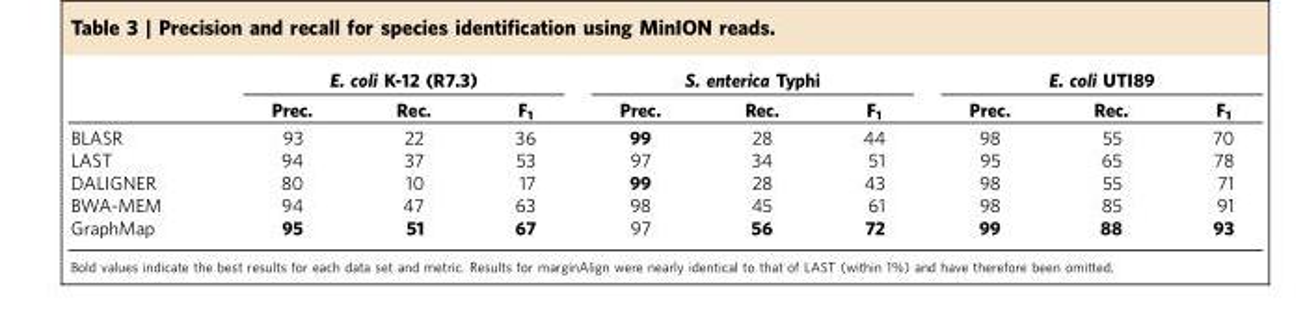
<table><thead><tr><td rowspan="2"></td><td colspan="3">E. coli K-12 (R7.3)</td><td colspan="3">S. enterica Typhi</td><td colspan="3">E. coli UTI89</td></tr><tr><td>Prec.</td><td>Rec.</td><td>F<sub>1</sub></td><td>Prec.</td><td>Rec.</td><td>F<sub>1</sub></td><td>Prec.</td><td>Rec.</td><td>F<sub>1</sub></td></tr></thead><tbody><tr><td>BLASR</td><td>93</td><td>22</td><td>36</td><td>99</td><td>28</td><td>44</td><td>98</td><td>55</td><td>70</td></tr><tr><td>LAST</td><td>94</td><td>37</td><td>53</td><td>97</td><td>34</td><td>51</td><td>95</td><td>65</td><td>78</td></tr><tr><td>DALIGNER</td><td>80</td><td>10</td><td>17</td><td>99</td><td>28</td><td>43</td><td>98</td><td>55</td><td>71</td></tr><tr><td>BWA-MEM</td><td>94</td><td>47</td><td>63</td><td>98</td><td>45</td><td>61</td><td>98</td><td>85</td><td>91</td></tr><tr><td>GraphMap</td><td>95</td><td>51</td><td>67</td><td>97</td><td>56</td><td>72</td><td>99</td><td>88</td><td>93</td></tr></tbody></table>